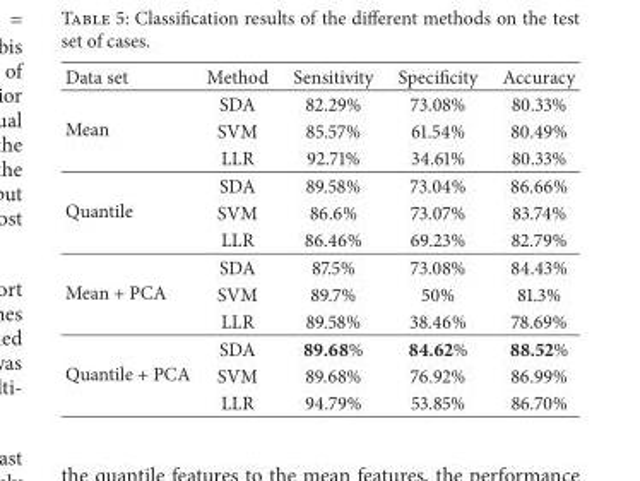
<table><thead><tr><td>Data set</td><td>Method</td><td>Sensitivity</td><td>Specificity</td><td>Accuracy</td></tr></thead><tbody><tr><td rowspan="3">Mean</td><td>SDA</td><td>82.29%</td><td>73.08%</td><td>80.33%</td></tr><tr><td>SVM</td><td>85.57%</td><td>61.54%</td><td>80.49%</td></tr><tr><td>LLR</td><td>92.71%</td><td>34.61%</td><td>80.33%</td></tr><tr><td rowspan="3">Quantile</td><td>SDA</td><td>89.58%</td><td>73.04%</td><td>86.66%</td></tr><tr><td>SVM</td><td>86.6%</td><td>73.07%</td><td>83.74%</td></tr><tr><td>LLR</td><td>86.46%</td><td>69.23%</td><td>82.79%</td></tr><tr><td rowspan="3">Mean + PCA</td><td>SDA</td><td>87.5%</td><td>73.08%</td><td>84.43%</td></tr><tr><td>SVM</td><td>89.7%</td><td>50%</td><td>81.3%</td></tr><tr><td>LLR</td><td>89.58%</td><td>38.46%</td><td>78.69%</td></tr><tr><td rowspan="3">Quantile + PCA</td><td>SDA</td><td>89.68%</td><td>84.62%</td><td>88.52%</td></tr><tr><td>SVM</td><td>89.68%</td><td>76.92%</td><td>86.99%</td></tr><tr><td>LLR</td><td>94.79%</td><td>53.85%</td><td>86.70%</td></tr></tbody></table>